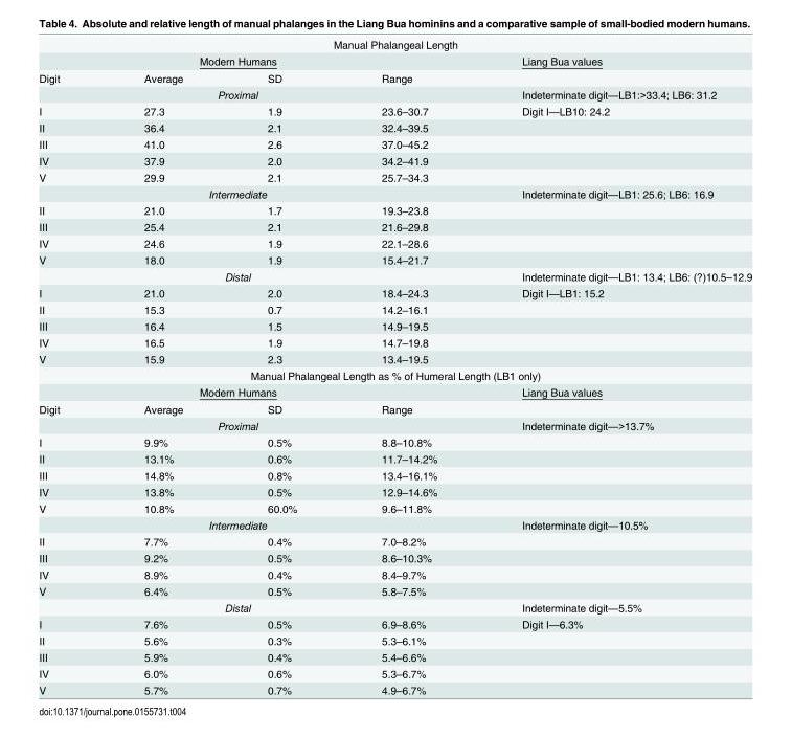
<table><tbody><tr><td colspan="5">Manual Phalangeal Length</td></tr><tr><td colspan="4">Modern Humans</td><td>Liang Bua values</td></tr><tr><td>Digit</td><td>Average</td><td>SD</td><td>Range</td><td></td></tr><tr><td colspan="4">Proximal</td><td>Indeterminate digit—LB1:&gt;33.4; LB6: 31.2</td></tr><tr><td>I</td><td>27.3</td><td>1.9</td><td>23.6–30.7</td><td>Digit I—LB10: 24.2</td></tr><tr><td>II</td><td>36.4</td><td>2.1</td><td>32.4–39.5</td><td></td></tr><tr><td>III</td><td>41.0</td><td>2.6</td><td>37.0–45.2</td><td></td></tr><tr><td>IV</td><td>37.9</td><td>2.0</td><td>34.2–41.9</td><td></td></tr><tr><td>V</td><td>29.9</td><td>2.1</td><td>25.7–34.3</td><td></td></tr><tr><td colspan="4">Intermediate</td><td>Indeterminate digit—LB1: 25.6; LB6: 16.9</td></tr><tr><td>II</td><td>21.0</td><td>1.7</td><td>19.3–23.8</td><td></td></tr><tr><td>III</td><td>25.4</td><td>2.1</td><td>21.6–29.8</td><td></td></tr><tr><td>IV</td><td>24.6</td><td>1.9</td><td>22.1–28.6</td><td></td></tr><tr><td>V</td><td>18.0</td><td>1.9</td><td>15.4–21.7</td><td></td></tr><tr><td colspan="4">Distal</td><td>Indeterminate digit—LB1: 13.4; LB6: (?)10.5–12.9</td></tr><tr><td>I</td><td>21.0</td><td>2.0</td><td>18.4–24.3</td><td>Digit I—LB1: 15.2</td></tr><tr><td>II</td><td>15.3</td><td>0.7</td><td>14.2–16.1</td><td></td></tr><tr><td>III</td><td>16.4</td><td>1.5</td><td>14.9–19.5</td><td></td></tr><tr><td>IV</td><td>16.5</td><td>1.9</td><td>14.7–19.8</td><td></td></tr><tr><td>V</td><td>15.9</td><td>2.3</td><td>13.4–19.5</td><td></td></tr><tr><td colspan="5">Manual Phalangeal Length as % of Humeral Length (LB1 only)</td></tr><tr><td colspan="4">Modern Humans</td><td>Liang Bua values</td></tr><tr><td>Digit</td><td>Average</td><td>SD</td><td>Range</td><td></td></tr><tr><td colspan="4">Proximal</td><td>Indeterminate digit—&gt;13.7%</td></tr><tr><td>I</td><td>9.9%</td><td>0.5%</td><td>8.8–10.8%</td><td></td></tr><tr><td>II</td><td>13.1%</td><td>0.6%</td><td>11.7–14.2%</td><td></td></tr><tr><td>III</td><td>14.8%</td><td>0.8%</td><td>13.4–16.1%</td><td></td></tr><tr><td>IV</td><td>13.8%</td><td>0.5%</td><td>12.9–14.6%</td><td></td></tr><tr><td>V</td><td>10.8%</td><td>60.0%</td><td>9.6–11.8%</td><td></td></tr><tr><td colspan="4">Intermediate</td><td>Indeterminate digit—10.5%</td></tr><tr><td>II</td><td>7.7%</td><td>0.4%</td><td>7.0–8.2%</td><td></td></tr><tr><td>III</td><td>9.2%</td><td>0.5%</td><td>8.6–10.3%</td><td></td></tr><tr><td>IV</td><td>8.9%</td><td>0.4%</td><td>8.4–9.7%</td><td></td></tr><tr><td>V</td><td>6.4%</td><td>0.5%</td><td>5.8–7.5%</td><td></td></tr><tr><td colspan="4">Distal</td><td>Indeterminate digit—5.5%</td></tr><tr><td>I</td><td>7.6%</td><td>0.5%</td><td>6.9–8.6%</td><td>Digit I—6.3%</td></tr><tr><td>II</td><td>5.6%</td><td>0.3%</td><td>5.3–6.1%</td><td></td></tr><tr><td>III</td><td>5.9%</td><td>0.4%</td><td>5.4–6.6%</td><td></td></tr><tr><td>IV</td><td>6.0%</td><td>0.6%</td><td>5.3–6.7%</td><td></td></tr><tr><td>V</td><td>5.7%</td><td>0.7%</td><td>4.9–6.7%</td><td></td></tr></tbody></table>